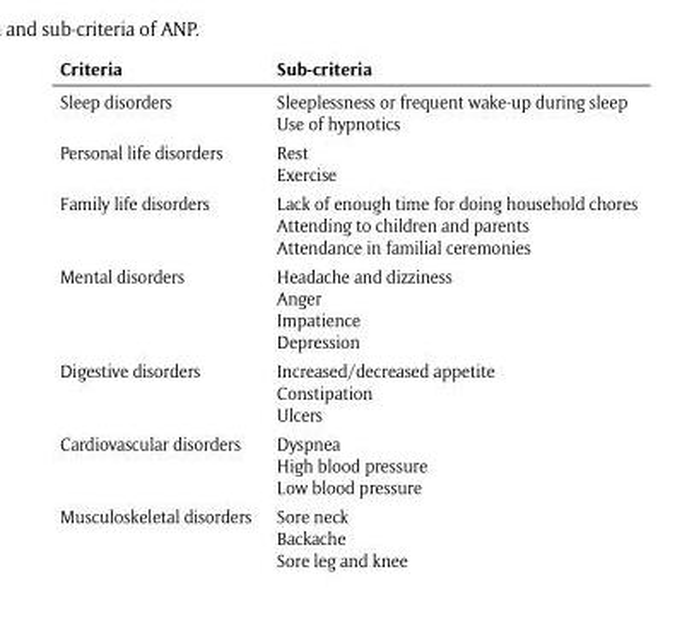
<table><thead><tr><td>Criteria</td><td>Sub-criteria</td></tr></thead><tbody><tr><td>Sleep disorders</td><td>Sleeplessness or frequent wake-up during sleep Use of hypnotics</td></tr><tr><td>Personal life disorders</td><td>Rest Exercise</td></tr><tr><td>Family life disorders</td><td>Lack of enough time for doing household chores Attending to children and parents Attendance in familial ceremonies</td></tr><tr><td>Mental disorders</td><td>Headache and dizziness Anger Impatience Depression</td></tr><tr><td>Digestive disorders</td><td>Increased/decreased appetite Constipation Ulcers</td></tr><tr><td>Cardiovascular disorders</td><td>Dyspnea High blood pressure Low blood pressure</td></tr><tr><td>Musculoskeletal disorders</td><td>Sore neck Backache Sore leg and knee</td></tr></tbody></table>